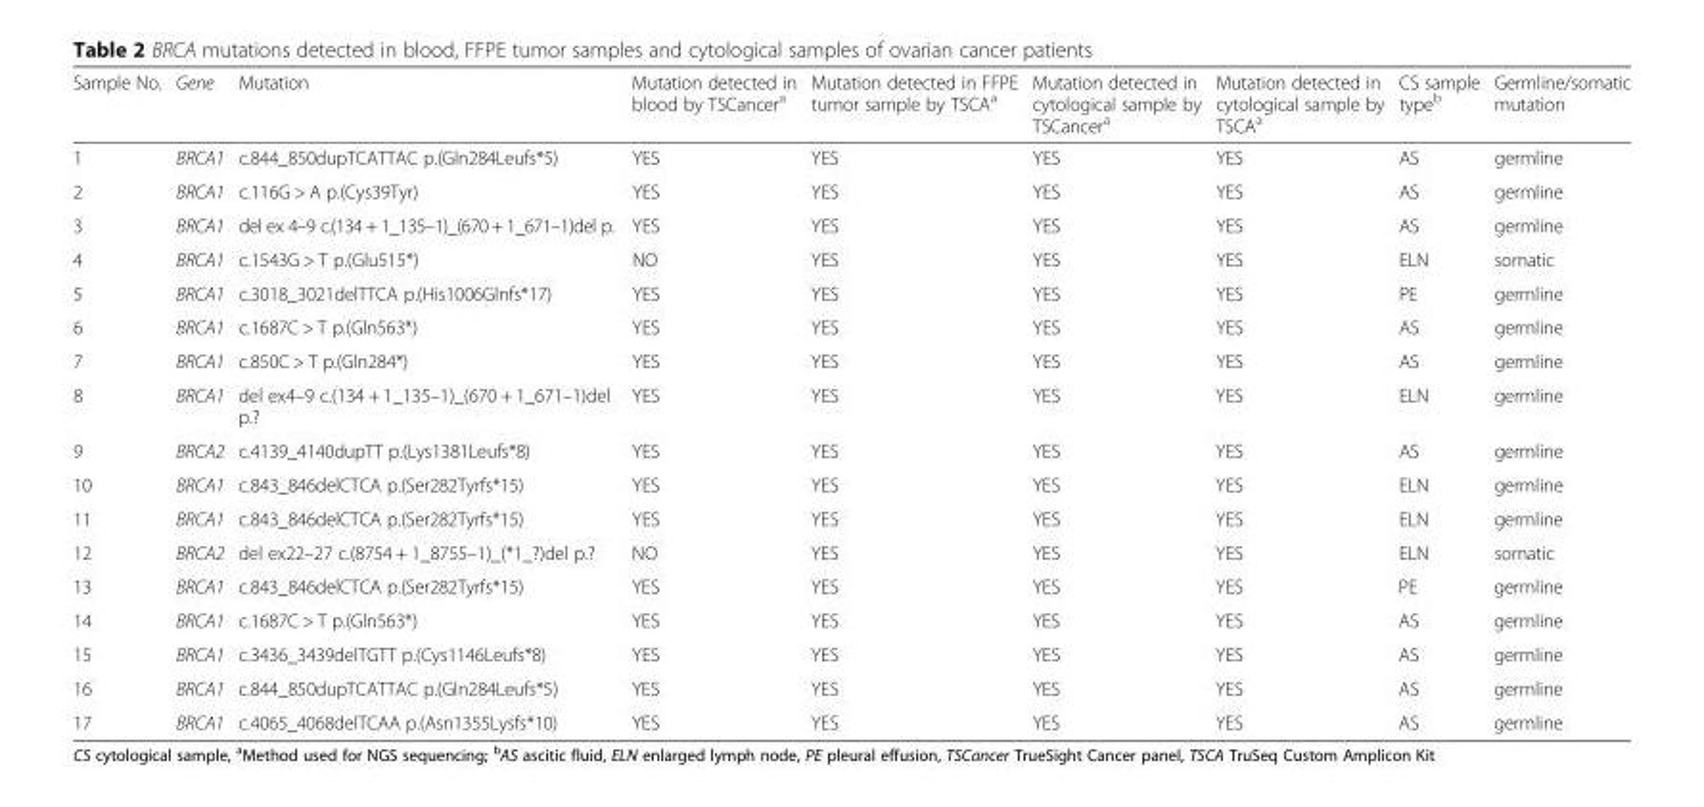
<table><thead><tr><td>Sample No.</td><td>Gene</td><td>Mutation</td><td>Mutation detected in blood by TSCancer<sup>a</sup></td><td>Mutation detected in FFPE tumor sample by TSCA<sup>a</sup></td><td>Mutation detected in cytological sample by TSCancer<sup>a</sup></td><td>Mutation detected in cytological sample by TSCA<sup>a</sup></td><td>CS sample type<sup>b</sup></td><td>Germline/somatic mutation</td></tr></thead><tbody><tr><td>1</td><td>BRCA1</td><td>c.844_850dupTCATTAC p.(Gln284Leufs*5)</td><td>YES</td><td>YES</td><td>YES</td><td>YES</td><td>AS</td><td>germline</td></tr><tr><td>2</td><td>BRCA1</td><td>c.116G &gt; A p.(Cys39Tyr)</td><td>YES</td><td>YES</td><td>YES</td><td>YES</td><td>AS</td><td>germline</td></tr><tr><td>3</td><td>BRCA1</td><td>del ex 4–9 c.(134 + 1_135–1)_(670 + 1_671–1)del p.</td><td>YES</td><td>YES</td><td>YES</td><td>YES</td><td>AS</td><td>germline</td></tr><tr><td>4</td><td>BRCA1</td><td>c.1543G &gt; T p.(Glu515*)</td><td>NO</td><td>YES</td><td>YES</td><td>YES</td><td>ELN</td><td>somatic</td></tr><tr><td>5</td><td>BRCA1</td><td>c.3018_3021delTTCA p.(His1006Glnfs*17)</td><td>YES</td><td>YES</td><td>YES</td><td>YES</td><td>PE</td><td>germline</td></tr><tr><td>6</td><td>BRCA1</td><td>c.1687C &gt; T p.(Gln563*)</td><td>YES</td><td>YES</td><td>YES</td><td>YES</td><td>AS</td><td>germline</td></tr><tr><td>7</td><td>BRCA1</td><td>c.850C &gt; T p.(Gln284*)</td><td>YES</td><td>YES</td><td>YES</td><td>YES</td><td>AS</td><td>germline</td></tr><tr><td>8</td><td>BRCA1</td><td>del ex4–9 c.(134 + 1_135–1)_(670 + 1_671–1)del p.?</td><td>YES</td><td>YES</td><td>YES</td><td>YES</td><td>ELN</td><td>germline</td></tr><tr><td>9</td><td>BRCA2</td><td>c.4139_4140dupTT p.(Lys1381Leufs*8)</td><td>YES</td><td>YES</td><td>YES</td><td>YES</td><td>AS</td><td>germline</td></tr><tr><td>10</td><td>BRCA1</td><td>c.843_846delCTCA p.(Ser282Tyrfs*15)</td><td>YES</td><td>YES</td><td>YES</td><td>YES</td><td>ELN</td><td>germline</td></tr><tr><td>11</td><td>BRCA1</td><td>c.843_846delCTCA p.(Ser282Tyrfs*15)</td><td>YES</td><td>YES</td><td>YES</td><td>YES</td><td>ELN</td><td>germline</td></tr><tr><td>12</td><td>BRCA2</td><td>del ex22–27 c.(8754 + 1_8755–1)_(*1_?)del p.?</td><td>NO</td><td>YES</td><td>YES</td><td>YES</td><td>ELN</td><td>somatic</td></tr><tr><td>13</td><td>BRCA1</td><td>c.843_846delCTCA p.(Ser282Tyrfs*15)</td><td>YES</td><td>YES</td><td>YES</td><td>YES</td><td>PE</td><td>germline</td></tr><tr><td>14</td><td>BRCA1</td><td>c.1687C &gt; T p.(Gln563*)</td><td>YES</td><td>YES</td><td>YES</td><td>YES</td><td>AS</td><td>germline</td></tr><tr><td>15</td><td>BRCA1</td><td>c.3436_3439delTGTT p.(Cys1146Leufs*8)</td><td>YES</td><td>YES</td><td>YES</td><td>YES</td><td>AS</td><td>germline</td></tr><tr><td>16</td><td>BRCA1</td><td>c.844_850dupTCATTAC p.(Gln284Leufs*5)</td><td>YES</td><td>YES</td><td>YES</td><td>YES</td><td>AS</td><td>germline</td></tr><tr><td>17</td><td>BRCA1</td><td>c.4065_4068delTCAA p.(Asn1355Lysfs*10)</td><td>YES</td><td>YES</td><td>YES</td><td>YES</td><td>AS</td><td>germline</td></tr></tbody></table>